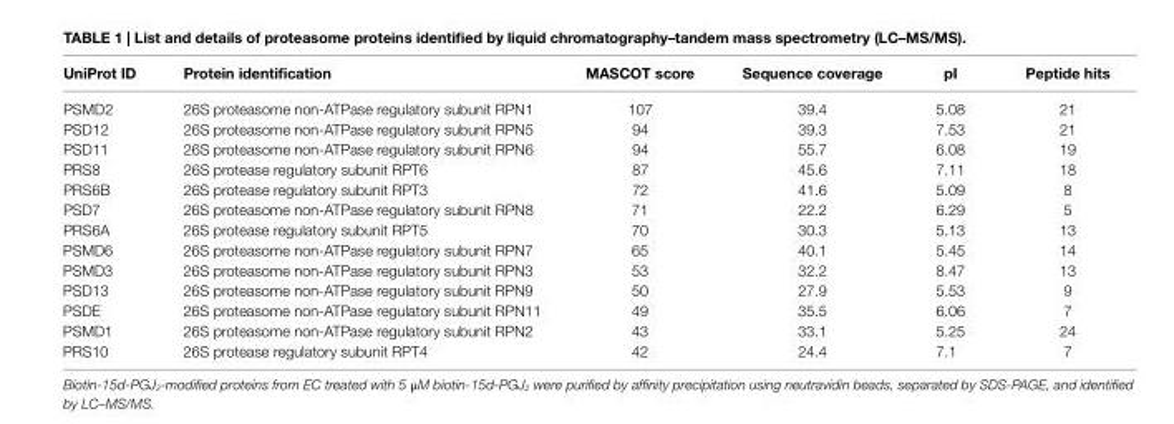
<table><thead><tr><td>UniProt iD</td><td>Protein identification</td><td>MascOT score</td><td>sequence coverage</td><td>pi</td><td>Peptide hits</td></tr></thead><tbody><tr><td>PSMD2</td><td>26S proteasome non-ATPase regulatory subunit RPN1</td><td>107</td><td>39.4</td><td>5.08</td><td>21</td></tr><tr><td>PSD12</td><td>26S proteasome non-ATPase regulatory subunit RPN5</td><td>94</td><td>39.3</td><td>7.53</td><td>21</td></tr><tr><td>PSD11</td><td>26S proteasome non-ATPase regulatory subunit RPN6</td><td>94</td><td>55.7</td><td>6.08</td><td>19</td></tr><tr><td>PRS8</td><td>26S protease regulatory subunit RPT6</td><td>87</td><td>45.6</td><td>7.11</td><td>18</td></tr><tr><td>PRS6B</td><td>26S protease regulatory subunit RPT3</td><td>72</td><td>41.6</td><td>5.09</td><td>8</td></tr><tr><td>PSD7</td><td>26S proteasome non-ATPase regulatory subunit RPN8</td><td>71</td><td>22.2</td><td>6.29</td><td>5</td></tr><tr><td>PRS6A</td><td>26S protease regulatory subunit RPT5</td><td>70</td><td>30.3</td><td>5.13</td><td>13</td></tr><tr><td>PSMD6</td><td>26S proteasome non-ATPase regulatory subunit RPN7</td><td>65</td><td>40.1</td><td>5.45</td><td>14</td></tr><tr><td>PSMD3</td><td>26S proteasome non-ATPase regulatory subunit RPN3</td><td>53</td><td>32.2</td><td>8.47</td><td>13</td></tr><tr><td>PSD13</td><td>26S proteasome non-ATPase regulatory subunit RPN9</td><td>50</td><td>27.9</td><td>5.53</td><td>9</td></tr><tr><td>PSDE</td><td>26S proteasome non-ATPase regulatory subunit RPN11</td><td>49</td><td>35.5</td><td>6.06</td><td>7</td></tr><tr><td>PSMD1</td><td>26S proteasome non-ATPase regulatory subunit RPN2</td><td>43</td><td>33.1</td><td>5.25</td><td>24</td></tr><tr><td>PRS10</td><td>26S protease regulatory subunit RPT4</td><td>42</td><td>24.4</td><td>7.1</td><td>7</td></tr></tbody></table>